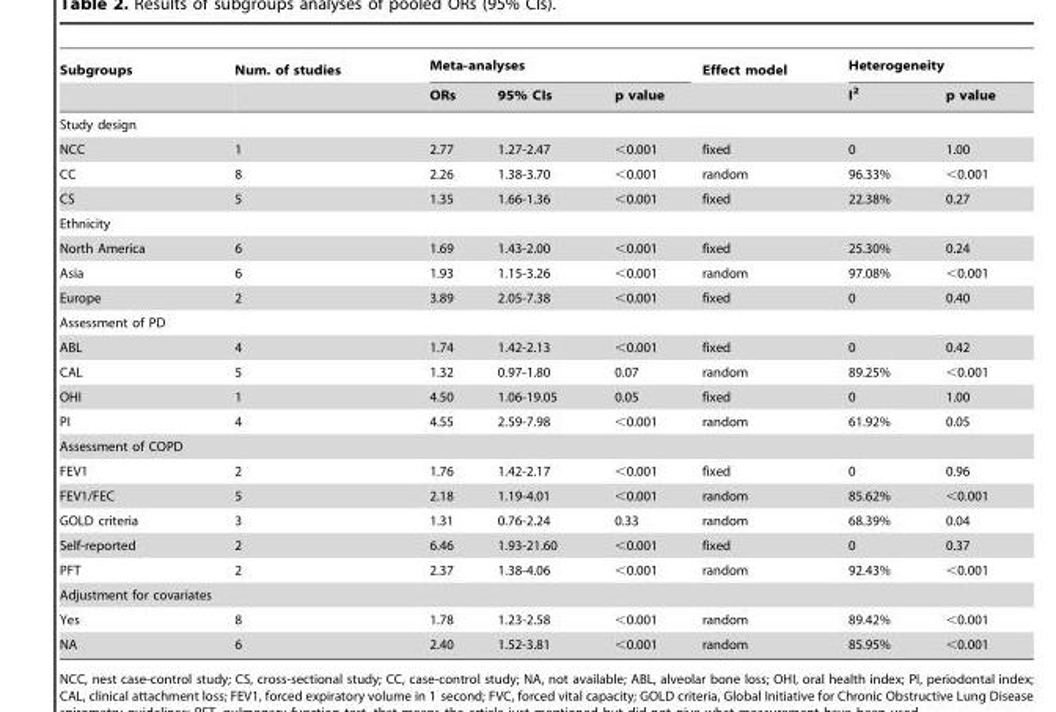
<table><thead><tr><td rowspan="2">Subgroups</td><td rowspan="2">Num. of studies</td><td colspan="3">Meta-analyses</td><td rowspan="2">Effect model</td><td colspan="2">Heterogeneity</td></tr><tr><td>ORs</td><td>95% CIs</td><td>p value</td><td>I<sup>2</sup></td><td>p value</td></tr></thead><tbody><tr><td colspan="8">Study design</td></tr><tr><td>NCC</td><td>1</td><td>2.77</td><td>1.27-2.47</td><td>&lt;0.001</td><td>fixed</td><td>0</td><td>1.00</td></tr><tr><td>CC</td><td>8</td><td>2.26</td><td>1.38-3.70</td><td>&lt;0.001</td><td>random</td><td>96.33%</td><td>&lt;0.001</td></tr><tr><td>CS</td><td>5</td><td>1.35</td><td>1.66-1.36</td><td>&lt;0.001</td><td>fixed</td><td>22.38%</td><td>0.27</td></tr><tr><td colspan="8">Ethnicity</td></tr><tr><td>North America</td><td>6</td><td>1.69</td><td>1.43-2.00</td><td>&lt;0.001</td><td>fixed</td><td>25.30%</td><td>0.24</td></tr><tr><td>Asia</td><td>6</td><td>1.93</td><td>1.15-3.26</td><td>&lt;0.001</td><td>random</td><td>97.08%</td><td>&lt;0.001</td></tr><tr><td>Europe</td><td>2</td><td>3.89</td><td>2.05-7.38</td><td>&lt;0.001</td><td>fixed</td><td>0</td><td>0.40</td></tr><tr><td colspan="8">Assessment of PD</td></tr><tr><td>ABL</td><td>4</td><td>1.74</td><td>1.42-2.13</td><td>&lt;0.001</td><td>fixed</td><td>0</td><td>0.42</td></tr><tr><td>CAL</td><td>5</td><td>1.32</td><td>0.97-1.80</td><td>0.07</td><td>random</td><td>89.25%</td><td>&lt;0.001</td></tr><tr><td>OHI</td><td>1</td><td>4.50</td><td>1.06-19.05</td><td>0.05</td><td>fixed</td><td>0</td><td>1.00</td></tr><tr><td>PI</td><td>4</td><td>4.55</td><td>2.59-7.98</td><td>&lt;0.001</td><td>random</td><td>61.92%</td><td>0.05</td></tr><tr><td colspan="8">Assessment of COPD</td></tr><tr><td>FEV1</td><td>2</td><td>1.76</td><td>1.42-2.17</td><td>&lt;0.001</td><td>fixed</td><td>0</td><td>0.96</td></tr><tr><td>FEV1/FEC</td><td>5</td><td>2.18</td><td>1.19-4.01</td><td>&lt;0.001</td><td>random</td><td>85.62%</td><td>&lt;0.001</td></tr><tr><td>GOLD criteria</td><td>3</td><td>1.31</td><td>0.76-2.24</td><td>0.33</td><td>random</td><td>68.39%</td><td>0.04</td></tr><tr><td>Self-reported</td><td>2</td><td>6.46</td><td>1.93-21.60</td><td>&lt;0.001</td><td>fixed</td><td>0</td><td>0.37</td></tr><tr><td>PFT</td><td>2</td><td>2.37</td><td>1.38-4.06</td><td>&lt;0.001</td><td>random</td><td>92.43%</td><td>&lt;0.001</td></tr><tr><td colspan="8">Adjustment for covariates</td></tr><tr><td>Yes</td><td>8</td><td>1.78</td><td>1.23-2.58</td><td>&lt;0.001</td><td>random</td><td>89.42%</td><td>&lt;0.001</td></tr><tr><td>NA</td><td>6</td><td>2.40</td><td>1.52-3.81</td><td>&lt;0.001</td><td>random</td><td>85.95%</td><td>&lt;0.001</td></tr></tbody></table>